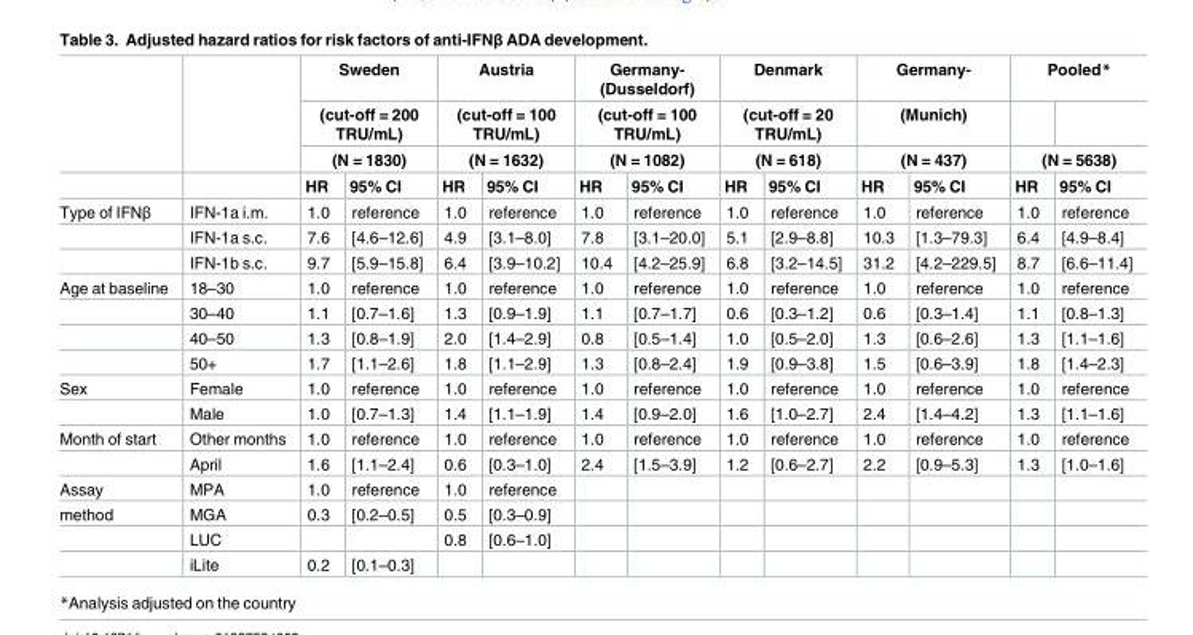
<table><thead><tr><td rowspan="4"></td><td rowspan="4"></td><td rowspan="3" colspan="2">Sweden (cut-off = 200 TRU/mL) (N = 1830)</td><td rowspan="3" colspan="2">Austria (cut-off = 100 TRU/mL) (N = 1632)</td><td rowspan="3" colspan="2">Germany- (Dusseldorf) (cut-off = 100 TRU/mL) (N = 1082)</td><td rowspan="3" colspan="2">Denmark (cut-off = 20 TRU/mL) (N = 618)</td><td rowspan="3" colspan="2">Germany- (Munich) (N = 437)</td><td colspan="2">Pooled*</td></tr><tr><td></td><td></td></tr><tr><td colspan="2">(N = 5638)</td></tr><tr><td>HR</td><td>95% CI</td><td>HR</td><td>95% CI</td><td>HR</td><td>95% CI</td><td>HR</td><td>95% CI</td><td>HR</td><td>95% CI</td><td>HR</td><td>95% CI</td></tr></thead><tbody><tr><td rowspan="3">Type of IFNβ</td><td>IFN-1a i.m.</td><td>1.0</td><td>reference</td><td>1.0</td><td>reference</td><td>1.0</td><td>reference</td><td>1.0</td><td>reference</td><td>1.0</td><td>reference</td><td>1.0</td><td>reference</td></tr><tr><td>IFN-1a s.c.</td><td>7.6</td><td>[4.6–12.6]</td><td>4.9</td><td>[3.1–8.0]</td><td>7.8</td><td>[3.1–20.0]</td><td>5.1</td><td>[2.9–8.8]</td><td>10.3</td><td>[1.3–79.3]</td><td>6.4</td><td>[4.9–8.4]</td></tr><tr><td>IFN-1b s.c.</td><td>9.7</td><td>[5.9–15.8]</td><td>6.4</td><td>[3.9–10.2]</td><td>10.4</td><td>[4.2–25.9]</td><td>6.8</td><td>[3.2–14.5]</td><td>31.2</td><td>[4.2–229.5]</td><td>8.7</td><td>[6.6–11.4]</td></tr><tr><td rowspan="4">Age at baseline</td><td>18–30</td><td>1.0</td><td>reference</td><td>1.0</td><td>reference</td><td>1.0</td><td>reference</td><td>1.0</td><td>reference</td><td>1.0</td><td>reference</td><td>1.0</td><td>reference</td></tr><tr><td>30–40</td><td>1.1</td><td>[0.7–1.6]</td><td>1.3</td><td>[0.9–1.9]</td><td>1.1</td><td>[0.7–1.7]</td><td>0.6</td><td>[0.3–1.2]</td><td>0.6</td><td>[0.3–1.4]</td><td>1.1</td><td>[0.8–1.3]</td></tr><tr><td>40–50</td><td>1.3</td><td>[0.8–1.9]</td><td>2.0</td><td>[1.4–2.9]</td><td>0.8</td><td>[0.5–1.4]</td><td>1.0</td><td>[0.5–2.0]</td><td>1.3</td><td>[0.6–2.6]</td><td>1.3</td><td>[1.1–1.6]</td></tr><tr><td>50+</td><td>1.7</td><td>[1.1–2.6]</td><td>1.8</td><td>[1.1–2.9]</td><td>1.3</td><td>[0.8–2.4]</td><td>1.9</td><td>[0.9–3.8]</td><td>1.5</td><td>[0.6–3.9]</td><td>1.8</td><td>[1.4–2.3]</td></tr><tr><td rowspan="2">Sex</td><td>Female</td><td>1.0</td><td>reference</td><td>1.0</td><td>reference</td><td>1.0</td><td>reference</td><td>1.0</td><td>reference</td><td>1.0</td><td>reference</td><td>1.0</td><td>reference</td></tr><tr><td>Male</td><td>1.0</td><td>[0.7–1.3]</td><td>1.4</td><td>[1.1–1.9]</td><td>1.4</td><td>[0.9–2.0]</td><td>1.6</td><td>[1.0–2.7]</td><td>2.4</td><td>[1.4–4.2]</td><td>1.3</td><td>[1.1–1.6]</td></tr><tr><td rowspan="2">Month of start</td><td>Other months</td><td>1.0</td><td>reference</td><td>1.0</td><td>reference</td><td>1.0</td><td>reference</td><td>1.0</td><td>reference</td><td>1.0</td><td>reference</td><td>1.0</td><td>reference</td></tr><tr><td>April</td><td>1.6</td><td>[1.1–2.4]</td><td>0.6</td><td>[0.3–1.0]</td><td>2.4</td><td>[1.5–3.9]</td><td>1.2</td><td>[0.6–2.7]</td><td>2.2</td><td>[0.9–5.3]</td><td>1.3</td><td>[1.0–1.6]</td></tr><tr><td>Assay</td><td>MPA</td><td>1.0</td><td>reference</td><td>1.0</td><td>reference</td><td></td><td></td><td></td><td></td><td></td><td></td><td></td><td></td></tr><tr><td rowspan="3">method</td><td>MGA</td><td>0.3</td><td>[0.2–0.5]</td><td>0.5</td><td>[0.3–0.9]</td><td></td><td></td><td></td><td></td><td></td><td></td><td></td><td></td></tr><tr><td>LUC</td><td></td><td></td><td>0.8</td><td>[0.6–1.0]</td><td></td><td></td><td></td><td></td><td></td><td></td><td></td><td></td></tr><tr><td>iLite</td><td>0.2</td><td>[0.1–0.3]</td><td></td><td></td><td></td><td></td><td></td><td></td><td></td><td></td><td></td><td></td></tr></tbody></table>